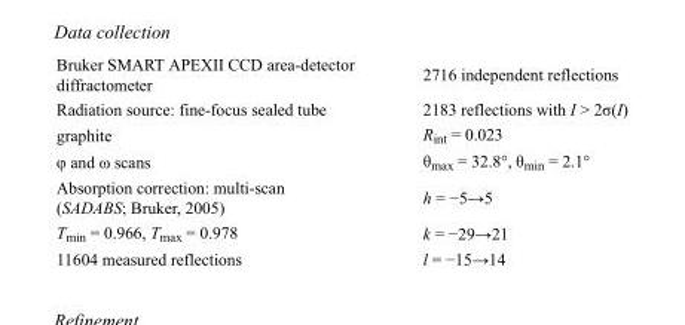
<table><tbody><tr><td>Bruker SMART APEXII CCD area-detector diffractometer</td><td>2716 independent reflections</td></tr><tr><td>Radiation source: fine-focus sealed tube</td><td>2183 reflections with I &gt; 2σ(I)</td></tr><tr><td>graphite</td><td>R<sub>int</sub> = 0.023</td></tr><tr><td>φ and ω scans</td><td>θ<sub>max</sub> = 32.8°, θ<sub>min</sub> = 2.1°</td></tr><tr><td>Absorption correction: multi-scan (SADABS; Bruker, 2005)</td><td>h = −5→5</td></tr><tr><td>T<sub>min</sub> = 0.966, T<sub>max</sub> = 0.978</td><td>k = −29→21</td></tr><tr><td>11604 measured reflections</td><td>l = −15→14</td></tr></tbody></table>